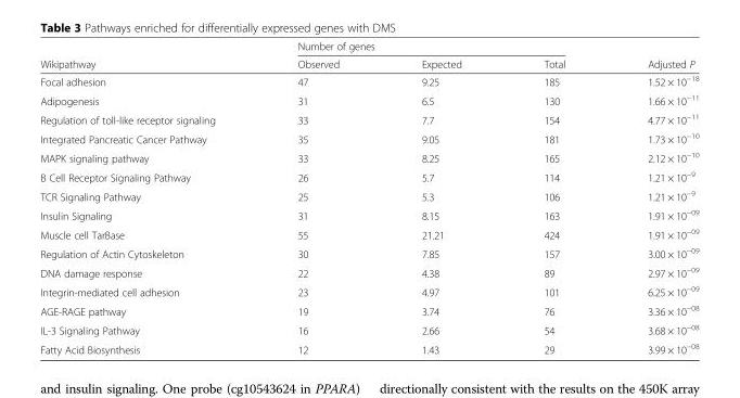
<table><thead><tr><td rowspan="2">Wikipathway</td><td colspan="3">Number of genes</td><td rowspan="2">Adjusted P</td></tr><tr><td>Observed</td><td>Expected</td><td>Total</td></tr></thead><tbody><tr><td>Focal adhesion</td><td>47</td><td>9.25</td><td>185</td><td>1.52 × 10<sup>−18</sup></td></tr><tr><td>Adipogenesis</td><td>31</td><td>6.5</td><td>130</td><td>1.66 × 10<sup>−11</sup></td></tr><tr><td>Regulation of toll-like receptor signaling</td><td>33</td><td>7.7</td><td>154</td><td>4.77 × 10<sup>−11</sup></td></tr><tr><td>Integrated Pancreatic Cancer Pathway</td><td>35</td><td>9.05</td><td>181</td><td>1.73 × 10<sup>−10</sup></td></tr><tr><td>MAPK signaling pathway</td><td>33</td><td>8.25</td><td>165</td><td>2.12 × 10<sup>−10</sup></td></tr><tr><td>B Cell Receptor Signaling Pathway</td><td>26</td><td>5.7</td><td>114</td><td>1.21 × 10<sup>−9</sup></td></tr><tr><td>TCR Signaling Pathway</td><td>25</td><td>5.3</td><td>106</td><td>1.21 × 10<sup>−9</sup></td></tr><tr><td>Insulin Signaling</td><td>31</td><td>8.15</td><td>163</td><td>1.91 × 10<sup>−09</sup></td></tr><tr><td>Muscle cell TarBase</td><td>55</td><td>21.21</td><td>424</td><td>1.91 × 10<sup>−09</sup></td></tr><tr><td>Regulation of Actin Cytoskeleton</td><td>30</td><td>7.85</td><td>157</td><td>3.00 × 10<sup>−09</sup></td></tr><tr><td>DNA damage response</td><td>22</td><td>4.38</td><td>89</td><td>2.97 × 10<sup>−09</sup></td></tr><tr><td>Integrin-mediated cell adhesion</td><td>23</td><td>4.97</td><td>101</td><td>6.25 × 10<sup>−09</sup></td></tr><tr><td>AGE-RAGE pathway</td><td>19</td><td>3.74</td><td>76</td><td>3.36 × 10<sup>−08</sup></td></tr><tr><td>IL-3 Signaling Pathway</td><td>16</td><td>2.66</td><td>54</td><td>3.68 × 10<sup>−08</sup></td></tr><tr><td>Fatty Acid Biosynthesis</td><td>12</td><td>1.43</td><td>29</td><td>3.99 × 10<sup>−08</sup></td></tr></tbody></table>